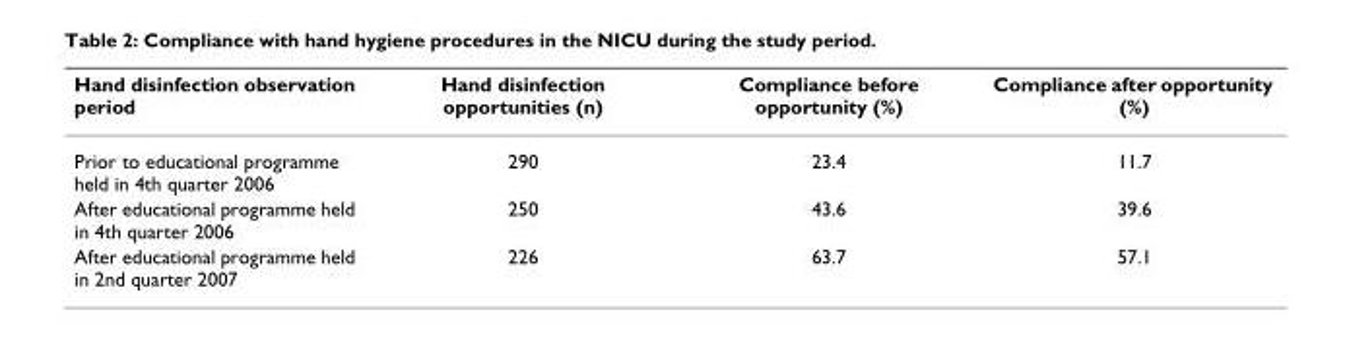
<table><thead><tr><td>Hand disinfection observation period</td><td>Hand disinfection opportunities (n)</td><td>Compliance before opportunity (%)</td><td>Compliance after opportunity (%)</td></tr></thead><tbody><tr><td>Prior to educational programme held in 4th quarter 2006</td><td>290</td><td>23.4</td><td>11.7</td></tr><tr><td>After educational programme held in 4th quarter 2006</td><td>250</td><td>43.6</td><td>39.6</td></tr><tr><td>After educational programme held in 2nd quarter 2007</td><td>226</td><td>63.7</td><td>57.1</td></tr></tbody></table>